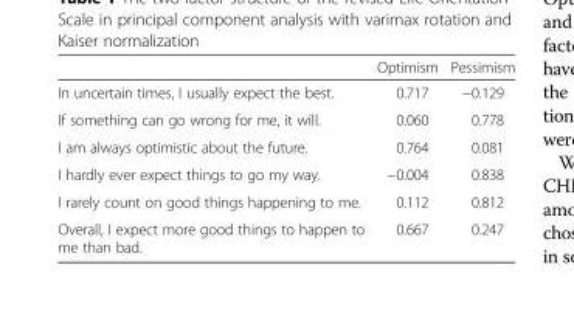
<table><thead><tr><td></td><td>Optimism</td><td>Pessimism</td></tr></thead><tbody><tr><td>In uncertain times, I usually expect the best.</td><td>0.717</td><td>−0.129</td></tr><tr><td>If something can go wrong for me, it will.</td><td>0.060</td><td>0.778</td></tr><tr><td>I am always optimistic about the future.</td><td>0.764</td><td>0.081</td></tr><tr><td>I hardly ever expect things to go my way.</td><td>−0.004</td><td>0.838</td></tr><tr><td>I rarely count on good things happening to me.</td><td>0.112</td><td>0.812</td></tr><tr><td>Overall, I expect more good things to happen to me than bad.</td><td>0.667</td><td>0.247</td></tr></tbody></table>